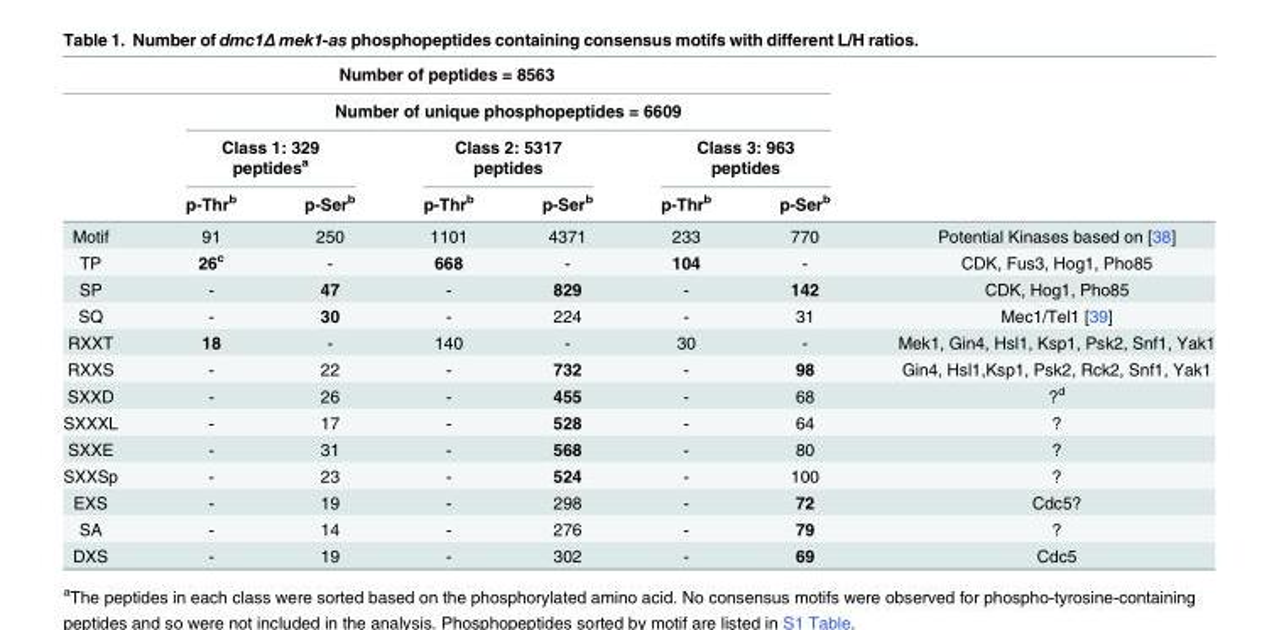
<table><thead><tr><td colspan="7">Number of peptides = 8563</td><td rowspan="4"></td></tr><tr><td rowspan="3"></td><td colspan="6">Number of unique phosphopeptides = 6609</td></tr><tr><td colspan="2">Class 1: 329 peptides<sup>a</sup></td><td colspan="2">Class 2: 5317 peptides</td><td colspan="2">Class 3: 963 peptides</td></tr><tr><td>p-Thr<sup>b</sup></td><td>p-Ser<sup>b</sup></td><td>p-Thr<sup>b</sup></td><td>p-Ser<sup>b</sup></td><td>p-Thr<sup>b</sup></td><td>p-Ser<sup>b</sup></td></tr></thead><tbody><tr><td>Motif</td><td>91</td><td>250</td><td>1101</td><td>4371</td><td>233</td><td>770</td><td>Potential Kinases based on [38]</td></tr><tr><td>TP</td><td>26<sup>c</sup></td><td>-</td><td>668</td><td>-</td><td>104</td><td>-</td><td>CDK, Fus3, Hog1, Pho85</td></tr><tr><td>SP</td><td>-</td><td>47</td><td>-</td><td>829</td><td>-</td><td>142</td><td>CDK, Hog1, Pho85</td></tr><tr><td>SQ</td><td>-</td><td>30</td><td>-</td><td>224</td><td>-</td><td>31</td><td>Mec1/Tel1 [39]</td></tr><tr><td>RXXT</td><td>18</td><td>-</td><td>140</td><td>-</td><td>30</td><td>-</td><td>Mek1, Gin4, Hsl1, Ksp1, Psk2, Snf1, Yak1</td></tr><tr><td>RXXS</td><td>-</td><td>22</td><td>-</td><td>732</td><td>-</td><td>98</td><td>Gin4, Hsl1,Ksp1, Psk2, Rck2, Snf1, Yak1</td></tr><tr><td>SXXD</td><td>-</td><td>26</td><td>-</td><td>455</td><td>-</td><td>68</td><td>?<sup>d</sup></td></tr><tr><td>SXXXL</td><td>-</td><td>17</td><td>-</td><td>528</td><td>-</td><td>64</td><td>?</td></tr><tr><td>SXXE</td><td>-</td><td>31</td><td>-</td><td>568</td><td>-</td><td>80</td><td>?</td></tr><tr><td>SXXSp</td><td>-</td><td>23</td><td>-</td><td>524</td><td>-</td><td>100</td><td>?</td></tr><tr><td>EXS</td><td>-</td><td>19</td><td>-</td><td>298</td><td>-</td><td>72</td><td>Cdc5?</td></tr><tr><td>SA</td><td>-</td><td>14</td><td>-</td><td>276</td><td>-</td><td>79</td><td>?</td></tr><tr><td>DXS</td><td>-</td><td>19</td><td>-</td><td>302</td><td>-</td><td>69</td><td>Cdc5</td></tr></tbody></table>